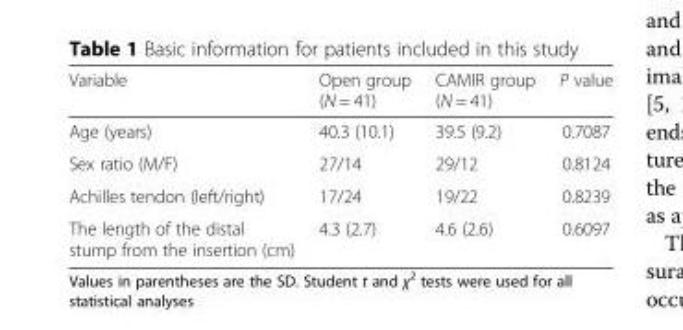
<table><thead><tr><td>Variable</td><td>Open group (N = 41)</td><td>CAMIR group (N = 41)</td><td>P value</td></tr></thead><tbody><tr><td>Age (years)</td><td>40.3 (10.1)</td><td>39.5 (9.2)</td><td>0.7087</td></tr><tr><td>Sex ratio (M/F)</td><td>27/14</td><td>29/12</td><td>0.8124</td></tr><tr><td>Achilles tendon (left/right)</td><td>17/24</td><td>19/22</td><td>0.8239</td></tr><tr><td>The length of the distal stump from the insertion (cm)</td><td>4.3 (2.7)</td><td>4.6 (2.6)</td><td>0.6097</td></tr></tbody></table>